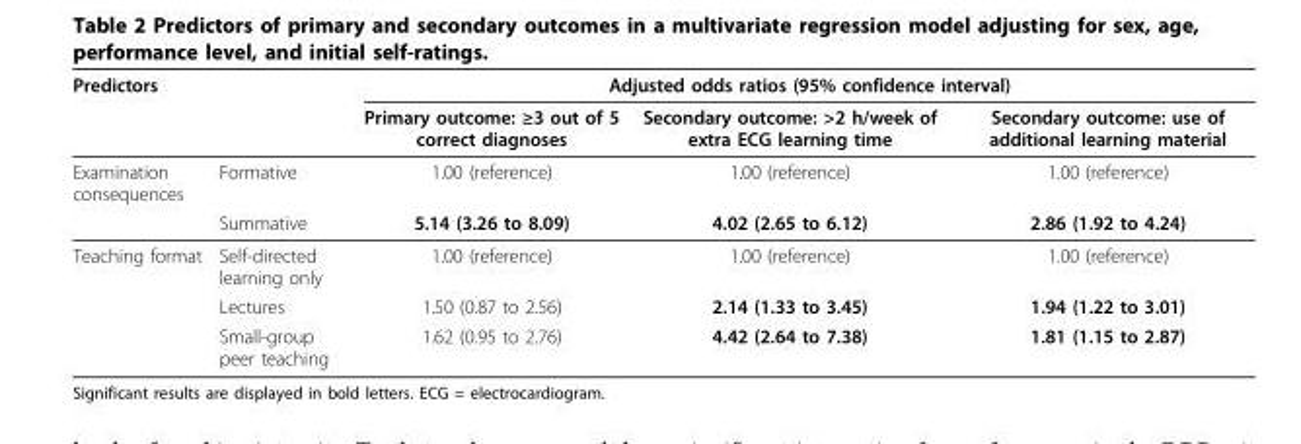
<table><thead><tr><td colspan="2">Predictors</td><td colspan="3">Adjusted odds ratios (95% confidence interval)</td></tr><tr><td></td><td></td><td>Primary outcome: ≥3 out of 5 correct diagnoses</td><td>Secondary outcome: &gt;2 h/week of extra ECG learning time</td><td>Secondary outcome: use of additional learning material</td></tr></thead><tbody><tr><td rowspan="2">Examination consequences</td><td>Formative</td><td>1.00 (reference)</td><td>1.00 (reference)</td><td>1.00 (reference)</td></tr><tr><td>Summative</td><td>5.14 (3.26 to 8.09)</td><td>4.02 (2.65 to 6.12)</td><td>2.86 (1.92 to 4.24)</td></tr><tr><td rowspan="3">Teaching format</td><td>Self-directed learning only</td><td>1.00 (reference)</td><td>1.00 (reference)</td><td>1.00 (reference)</td></tr><tr><td>Lectures</td><td>1.50 (0.87 to 2.56)</td><td>2.14 (1.33 to 3.45)</td><td>1.94 (1.22 to 3.01)</td></tr><tr><td>Small-group peer teaching</td><td>1.62 (0.95 to 2.76)</td><td>4.42 (2.64 to 7.38)</td><td>1.81 (1.15 to 2.87)</td></tr></tbody></table>